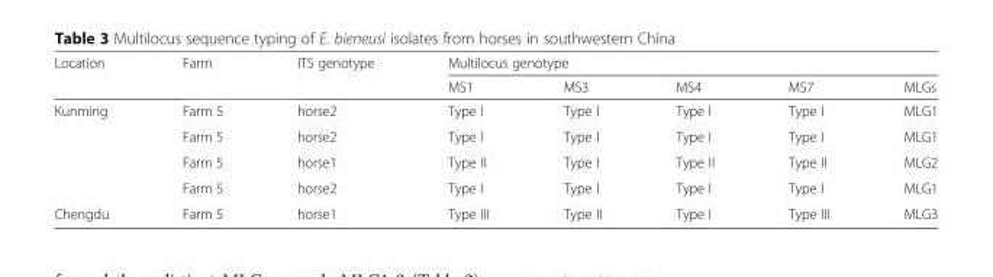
<table><thead><tr><td rowspan="2">Location</td><td rowspan="2">Farm</td><td rowspan="2">ITS genotype</td><td colspan="5">Multilocus genotype</td></tr><tr><td>MS1</td><td>MS3</td><td>MS4</td><td>MS7</td><td>MLGs</td></tr></thead><tbody><tr><td rowspan="4">Kunming</td><td>Farm 5</td><td>horse2</td><td>Type I</td><td>Type I</td><td>Type I</td><td>Type I</td><td>MLG1</td></tr><tr><td>Farm 5</td><td>horse2</td><td>Type I</td><td>Type I</td><td>Type I</td><td>Type I</td><td>MLG1</td></tr><tr><td>Farm 5</td><td>horse1</td><td>Type II</td><td>Type I</td><td>Type II</td><td>Type II</td><td>MLG2</td></tr><tr><td>Farm 5</td><td>horse2</td><td>Type I</td><td>Type I</td><td>Type I</td><td>Type I</td><td>MLG1</td></tr><tr><td>Chengdu</td><td>Farm 5</td><td>horse1</td><td>Type III</td><td>Type II</td><td>Type I</td><td>Type III</td><td>MLG3</td></tr></tbody></table>